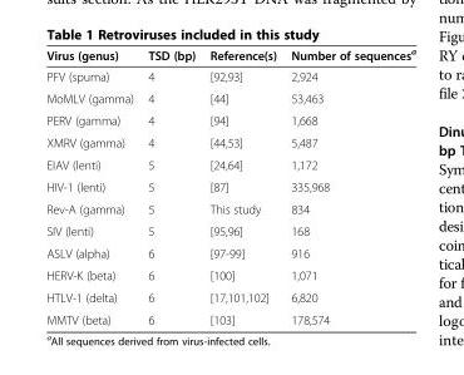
<table><thead><tr><td>Virus (genus)</td><td>TSD (bp)</td><td>Reference(s)</td><td>Number of sequences<sup>a</sup></td></tr></thead><tbody><tr><td>PFV (spuma)</td><td>4</td><td>[92,93]</td><td>2,924</td></tr><tr><td>MoMLV (gamma)</td><td>4</td><td>[44]</td><td>53,463</td></tr><tr><td>PERV (gamma)</td><td>4</td><td>[94]</td><td>1,668</td></tr><tr><td>XMRV (gamma)</td><td>4</td><td>[44,53]</td><td>5,487</td></tr><tr><td>EIAV (lenti)</td><td>5</td><td>[24,64]</td><td>1,172</td></tr><tr><td>HIV-1 (lenti)</td><td>5</td><td>[87]</td><td>335,968</td></tr><tr><td>Rev-A (gamma)</td><td>5</td><td>This study</td><td>834</td></tr><tr><td>SIV (lenti)</td><td>5</td><td>[95,96]</td><td>168</td></tr><tr><td>ASLV (alpha)</td><td>6</td><td>[97-99]</td><td>916</td></tr><tr><td>HERV-K (beta)</td><td>6</td><td>[100]</td><td>1,071</td></tr><tr><td>HTLV-1 (delta)</td><td>6</td><td>[17,101,102]</td><td>6,820</td></tr><tr><td>MMTV (beta)</td><td>6</td><td>[103]</td><td>178,574</td></tr></tbody></table>